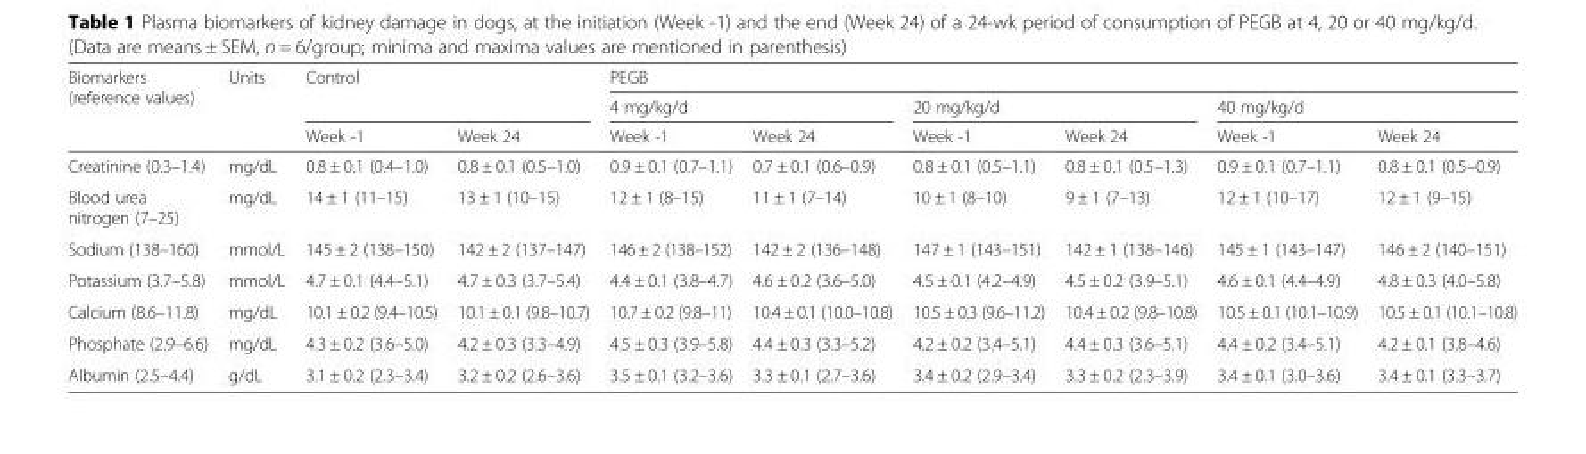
<table><thead><tr><td rowspan="3">Biomarkers (reference values)</td><td rowspan="3">Units</td><td rowspan="2" colspan="2">Control</td><td colspan="6">PEGB</td></tr><tr><td colspan="2">4 mg/kg/d</td><td colspan="2">20 mg/kg/d</td><td colspan="2">40 mg/kg/d</td></tr><tr><td>Week -1</td><td>Week 24</td><td>Week -1</td><td>Week 24</td><td>Week -1</td><td>Week 24</td><td>Week -1</td><td>Week 24</td></tr></thead><tbody><tr><td>Creatinine (0.3–1.4)</td><td>mg/dL</td><td>0.8 ± 0.1 (0.4–1.0)</td><td>0.8 ± 0.1 (0.5–1.0)</td><td>0.9 ± 0.1 (0.7–1.1)</td><td>0.7 ± 0.1 (0.6–0.9)</td><td>0.8 ± 0.1 (0.5–1.1)</td><td>0.8 ± 0.1 (0.5–1.3)</td><td>0.9 ± 0.1 (0.7–1.1)</td><td>0.8 ± 0.1 (0.5–0.9)</td></tr><tr><td>Blood urea nitrogen (7–25)</td><td>mg/dL</td><td>14 ± 1 (11–15)</td><td>13 ± 1 (10–15)</td><td>12 ± 1 (8–15)</td><td>11 ± 1 (7–14)</td><td>10 ± 1 (8–10)</td><td>9 ± 1 (7–13)</td><td>12 ± 1 (10–17)</td><td>12 ± 1 (9–15)</td></tr><tr><td>Sodium (138–160)</td><td>mmol/L</td><td>145 ± 2 (138–150)</td><td>142 ± 2 (137–147)</td><td>146 ± 2 (138–152)</td><td>142 ± 2 (136–148)</td><td>147 ± 1 (143–151)</td><td>142 ± 1 (138–146)</td><td>145 ± 1 (143–147)</td><td>146 ± 2 (140–151)</td></tr><tr><td>Potassium (3.7–5.8)</td><td>mmol/L</td><td>4.7 ± 0.1 (4.4–5.1)</td><td>4.7 ± 0.3 (3.7–5.4)</td><td>4.4 ± 0.1 (3.8–4.7)</td><td>4.6 ± 0.2 (3.6–5.0)</td><td>4.5 ± 0.1 (4.2–4.9)</td><td>4.5 ± 0.2 (3.9–5.1)</td><td>4.6 ± 0.1 (4.4–4.9)</td><td>4.8 ± 0.3 (4.0–5.8)</td></tr><tr><td>Calcium (8.6–11.8)</td><td>mg/dL</td><td>10.1 ± 0.2 (9.4–10.5)</td><td>10.1 ± 0.1 (9.8–10.7)</td><td>10.7 ± 0.2 (9.8–11)</td><td>10.4 ± 0.1 (10.0–10.8)</td><td>10.5 ± 0.3 (9.6–11.2)</td><td>10.4 ± 0.2 (9.8–10.8)</td><td>10.5 ± 0.1 (10.1–10.9)</td><td>10.5 ± 0.1 (10.1–10.8)</td></tr><tr><td>Phosphate (2.9–6.6)</td><td>mg/dL</td><td>4.3 ± 0.2 (3.6–5.0)</td><td>4.2 ± 0.3 (3.3–4.9)</td><td>4.5 ± 0.3 (3.9–5.8)</td><td>4.4 ± 0.3 (3.3–5.2)</td><td>4.2 ± 0.2 (3.4–5.1)</td><td>4.4 ± 0.3 (3.6–5.1)</td><td>4.4 ± 0.2 (3.4–5.1)</td><td>4.2 ± 0.1 (3.8–4.6)</td></tr><tr><td>Albumin (2.5–4.4)</td><td>g/dL</td><td>3.1 ± 0.2 (2.3–3.4)</td><td>3.2 ± 0.2 (2.6–3.6)</td><td>3.5 ± 0.1 (3.2–3.6)</td><td>3.3 ± 0.1 (2.7–3.6)</td><td>3.4 ± 0.2 (2.9–3.4)</td><td>3.3 ± 0.2 (2.3–3.9)</td><td>3.4 ± 0.1 (3.0–3.6)</td><td>3.4 ± 0.1 (3.3–3.7)</td></tr></tbody></table>